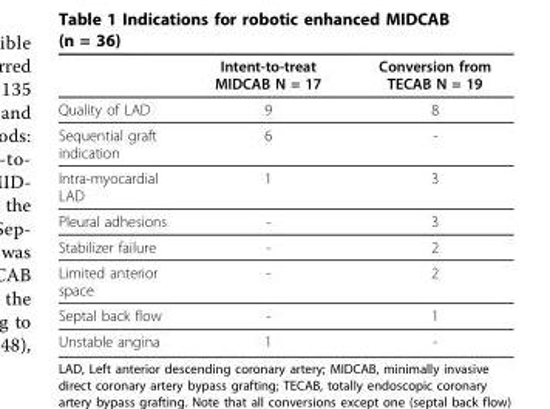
<table><thead><tr><td></td><td>Intent-to-treat MIDCAB N = 17</td><td>Conversion from TECAB N = 19</td></tr></thead><tbody><tr><td>Quality of LAD</td><td>9</td><td>8</td></tr><tr><td>Sequential graft indication</td><td>6</td><td>-</td></tr><tr><td>Intra-myocardial LAD</td><td>1</td><td>3</td></tr><tr><td>Pleural adhesions</td><td>-</td><td>3</td></tr><tr><td>Stabilizer failure</td><td>-</td><td>2</td></tr><tr><td>Limited anterior space</td><td>-</td><td>2</td></tr><tr><td>Septal back flow</td><td>-</td><td>1</td></tr><tr><td>Unstable angina</td><td>1</td><td>-</td></tr></tbody></table>